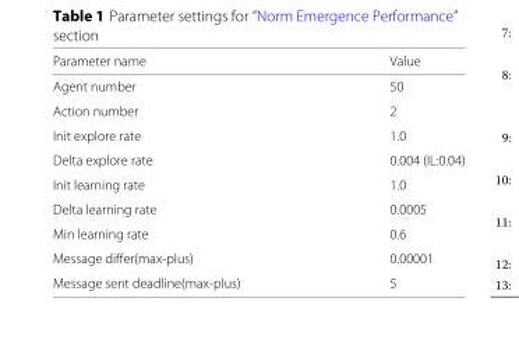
<table><thead><tr><td>Parameter name</td><td>Value</td></tr></thead><tbody><tr><td>Agent number</td><td>50</td></tr><tr><td>Action number</td><td>2</td></tr><tr><td>Init explore rate</td><td>1.0</td></tr><tr><td>Delta explore rate</td><td>0.004 (IL:0.04)</td></tr><tr><td>Init learning rate</td><td>1.0</td></tr><tr><td>Delta learning rate</td><td>0.0005</td></tr><tr><td>Min learning rate</td><td>0.6</td></tr><tr><td>Message differ(max-plus)</td><td>0.00001</td></tr><tr><td>Message sent deadline(max-plus)</td><td>5</td></tr></tbody></table>